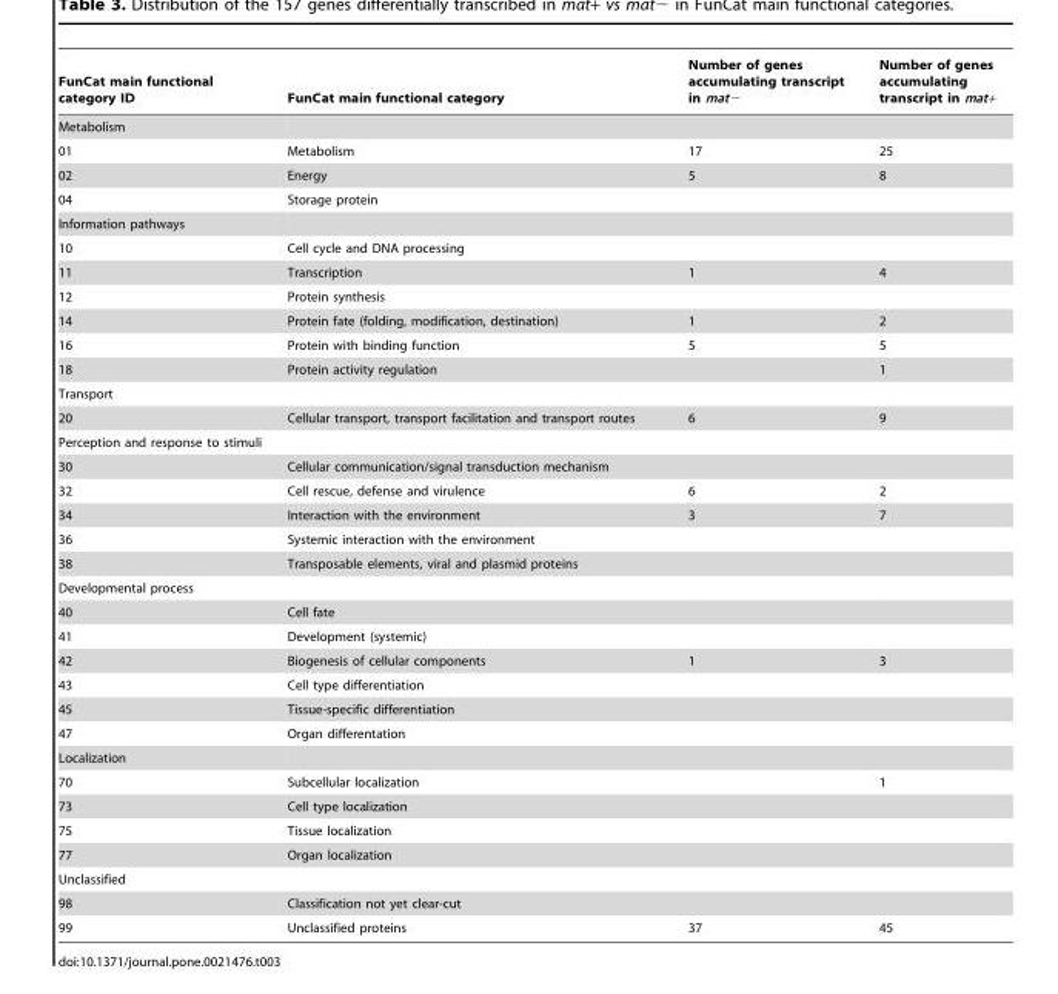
<table><thead><tr><td>FunCat main functional category ID</td><td>FunCat main functional category</td><td>Number of genes accumulating transcript in mat−</td><td>Number of genes accumulating transcript in mat+</td></tr></thead><tbody><tr><td colspan="4">Metabolism</td></tr><tr><td>01</td><td>Metabolism</td><td>17</td><td>25</td></tr><tr><td>02</td><td>Energy</td><td>5</td><td>8</td></tr><tr><td>04</td><td>Storage protein</td><td></td><td></td></tr><tr><td colspan="4">Information pathways</td></tr><tr><td>10</td><td>Cell cycle and DNA processing</td><td></td><td></td></tr><tr><td>11</td><td>Transcription</td><td>1</td><td>4</td></tr><tr><td>12</td><td>Protein synthesis</td><td></td><td></td></tr><tr><td>14</td><td>Protein fate (folding, modification, destination)</td><td>1</td><td>2</td></tr><tr><td>16</td><td>Protein with binding function</td><td>5</td><td>5</td></tr><tr><td>18</td><td>Protein activity regulation</td><td></td><td>1</td></tr><tr><td colspan="4">Transport</td></tr><tr><td>20</td><td>Cellular transport, transport facilitation and transport routes</td><td>6</td><td>9</td></tr><tr><td colspan="4">Perception and response to stimuli</td></tr><tr><td>30</td><td>Cellular communication/signal transduction mechanism</td><td></td><td></td></tr><tr><td>32</td><td>Cell rescue, defense and virulence</td><td>6</td><td>2</td></tr><tr><td>34</td><td>Interaction with the environment</td><td>3</td><td>7</td></tr><tr><td>36</td><td>Systemic interaction with the environment</td><td></td><td></td></tr><tr><td>38</td><td>Transposable elements, viral and plasmid proteins</td><td></td><td></td></tr><tr><td colspan="4">Developmental process</td></tr><tr><td>40</td><td>Cell fate</td><td></td><td></td></tr><tr><td>41</td><td>Development (systemic)</td><td></td><td></td></tr><tr><td>42</td><td>Biogenesis of cellular components</td><td>1</td><td>3</td></tr><tr><td>43</td><td>Cell type differentiation</td><td></td><td></td></tr><tr><td>45</td><td>Tissue-specific differentiation</td><td></td><td></td></tr><tr><td>47</td><td>Organ differentation</td><td></td><td></td></tr><tr><td colspan="4">Localization</td></tr><tr><td>70</td><td>Subcellular localization</td><td></td><td>1</td></tr><tr><td>73</td><td>Cell type localization</td><td></td><td></td></tr><tr><td>75</td><td>Tissue localization</td><td></td><td></td></tr><tr><td>77</td><td>Organ localization</td><td></td><td></td></tr><tr><td colspan="4">Unclassified</td></tr><tr><td>98</td><td>Classification not yet clear-cut</td><td></td><td></td></tr><tr><td>99</td><td>Unclassified proteins</td><td>37</td><td>45</td></tr></tbody></table>